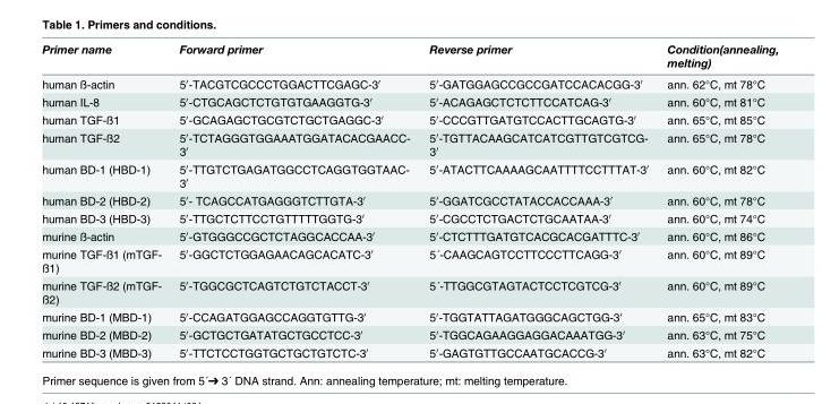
<table><thead><tr><td>Primer name</td><td>Forward primer</td><td>Reverse primer</td><td>Condition(annealing, melting)</td></tr></thead><tbody><tr><td>human ß-actin</td><td>5′-TACGTCGCCCTGGACTTCGAGC-3′</td><td>5′-GATGGAGCCGCCGATCCACACGG-3′</td><td>ann. 62°C, mt 78°C</td></tr><tr><td>human IL-8</td><td>5′-CTGCAGCTCTGTGTGAAGGTG-3′</td><td>5′-ACAGAGCTCTCTTCCATCAG-3′</td><td>ann. 60°C, mt 81°C</td></tr><tr><td>human TGF-ß1</td><td>5′-GCAGAGCTGCGTCTGCTGAGGC-3′</td><td>5′-CCCGTTGATGTCCACTTGCAGTG-3′</td><td>ann. 65°C, mt 85°C</td></tr><tr><td>human TGF-ß2</td><td>5′-TCTAGGGTGGAAATGGATACACGAACC- 3′</td><td>5′-TGTTACAAGCATCATCGTTGTCGTCG- 3′</td><td>ann. 65°C, mt 78°C</td></tr><tr><td>human BD-1 (HBD-1)</td><td>5′-TTGTCTGAGATGGCCTCAGGTGGTAAC- 3′</td><td>5′-ATACTTCAAAAGCAATTTTCCTTTAT-3′</td><td>ann. 60°C, mt 82°C</td></tr><tr><td>human BD-2 (HBD-2)</td><td>5′- TCAGCCATGAGGGTCTTGTA-3′</td><td>5′-GGATCGCCTATACCACCAAA-3′</td><td>ann. 60°C, mt 78°C</td></tr><tr><td>human BD-3 (HBD-3)</td><td>5′-TTGCTCTTCCTGTTTTTGGTG-3′</td><td>5′-CGCCTCTGACTCTGCAATAA-3′</td><td>ann. 60°C, mt 74°C</td></tr><tr><td>murine ß-actin</td><td>5′-GTGGGCCGCTCTAGGCACCAA-3′</td><td>5′-CTCTTTGATGTCACGCACGATTTC-3′</td><td>ann. 60°C, mt 86°C</td></tr><tr><td>murine TGF-ß1 (mTGF- ß1)</td><td>5′-GGCTCTGGAGAACAGCACATC-3′</td><td>5´-CAAGCAGTCCTTCCCTTCAGG-3′</td><td>ann. 60°C, mt 89°C</td></tr><tr><td>murine TGF-ß2 (mTGF- ß2)</td><td>5′-TGGCGCTCAGTCTGTCTACCT-3′</td><td>5´-TTGGCGTAGTACTCCTCGTCG-3′</td><td>ann. 60°C, mt 89°C</td></tr><tr><td>murine BD-1 (MBD-1)</td><td>5′-CCAGATGGAGCCAGGTGTTG-3′</td><td>5′-TGGTATTAGATGGGCAGCTGG-3′</td><td>ann. 65°C, mt 83°C</td></tr><tr><td>murine BD-2 (MBD-2)</td><td>5′-GCTGCTGATATGCTGCCTCC-3′</td><td>5′-TGGCAGAAGGAGGACAAATGG-3′</td><td>ann. 63°C, mt 75°C</td></tr><tr><td>murine BD-3 (MBD-3)</td><td>5′-TTCTCCTGGTGCTGCTGTCTC-3′</td><td>5′-GAGTGTTGCCAATGCACCG-3′</td><td>ann. 63°C, mt 82°C</td></tr></tbody></table>